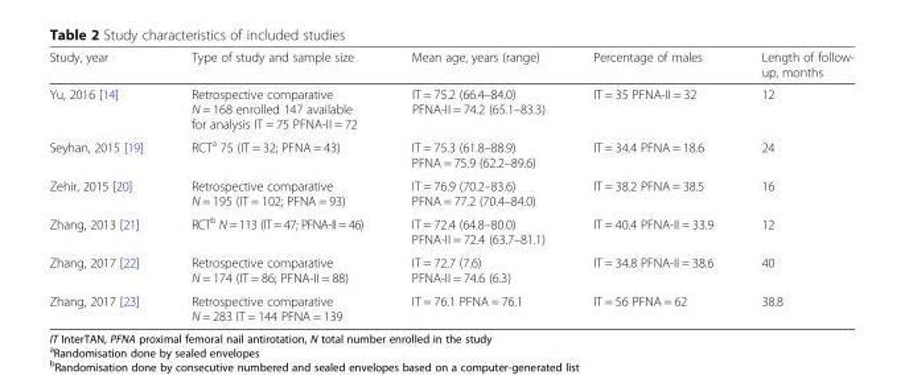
<table><thead><tr><td>Study, year</td><td>Type of study and sample size</td><td>Mean age, years (range)</td><td>Percentage of males</td><td>Length of follow- up, months</td></tr></thead><tbody><tr><td>Yu, 2016 [14]</td><td>Retrospective comparative N = 168 enrolled 147 available for analysis IT = 75 PFNA-II = 72</td><td>IT = 75.2 (66.4–84.0) PFNA-II = 74.2 (65.1–83.3)</td><td>IT = 35 PFNA-II = 32</td><td>12</td></tr><tr><td>Seyhan, 2015 [19]</td><td>RCT<sup>a</sup> 75 (IT = 32; PFNA = 43)</td><td>IT = 75.3 (61.8–88.9) PFNA = 75.9 (62.2–89.6)</td><td>IT = 34.4 PFNA = 18.6</td><td>24</td></tr><tr><td>Zehir, 2015 [20]</td><td>Retrospective comparative N = 195 (IT = 102; PFNA = 93)</td><td>IT = 76.9 (70.2–83.6) PFNA = 77.2 (70.4–84.0)</td><td>IT = 38.2 PFNA = 38.5</td><td>16</td></tr><tr><td>Zhang, 2013 [21]</td><td>RCT<sup>b</sup> N = 113 (IT = 47; PFNA-II = 46)</td><td>IT = 72.4 (64.8–80.0) PFNA-II = 72.4 (63.7–81.1)</td><td>IT = 40.4 PFNA-II = 33.9</td><td>12</td></tr><tr><td>Zhang, 2017 [22]</td><td>Retrospective comparative N = 174 (IT = 86; PFNA-II = 88)</td><td>IT = 72.7 (7.6) PFNA-II = 74.6 (6.3)</td><td>IT = 34.8 PFNA-II = 38.6</td><td>40</td></tr><tr><td>Zhang, 2017 [23]</td><td>Retrospective comparative N = 283 IT = 144 PFNA = 139</td><td>IT = 76.1 PFNA = 76.1</td><td>IT = 56 PFNA = 62</td><td>38.8</td></tr></tbody></table>